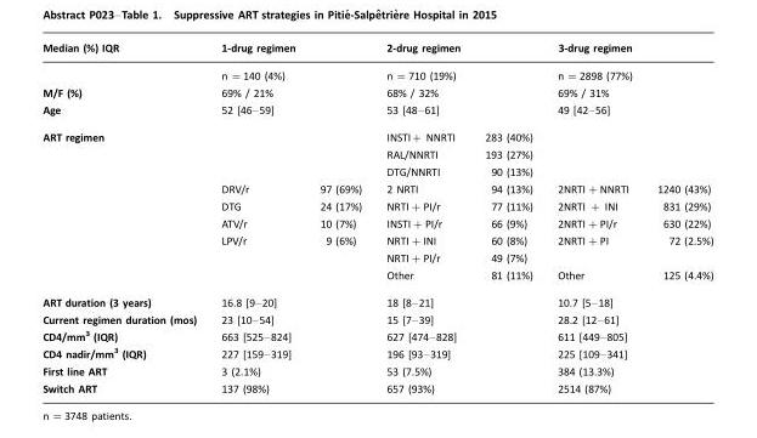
<table><thead><tr><td>Median (%) IQR</td><td>1-drug regimen</td><td></td><td>2-drug regimen</td><td></td><td>3-drug regimen</td><td></td></tr></thead><tbody><tr><td></td><td>n =140 (4%)</td><td></td><td>n =710 (19%)</td><td></td><td>n =2898 (77%)</td><td></td></tr><tr><td>M/F (%)</td><td>69% / 21%</td><td></td><td>68% / 32%</td><td></td><td>69% / 31%</td><td></td></tr><tr><td>Age</td><td>52 [46–59]</td><td></td><td>53 [48–61]</td><td></td><td>49 [42–56]</td><td></td></tr><tr><td rowspan="9">ART regimen</td><td></td><td></td><td>INSTI+ NNRTI</td><td>283 (40%)</td><td></td><td></td></tr><tr><td></td><td></td><td>RAL/NNRTI</td><td>193 (27%)</td><td></td><td></td></tr><tr><td></td><td></td><td>DTG/NNRTI</td><td>90 (13%)</td><td></td><td></td></tr><tr><td>DRV/r</td><td>97 (69%)</td><td>2 NRTI</td><td>94 (13%)</td><td>2NRTI+NNRTI</td><td>1240 (43%)</td></tr><tr><td>DTG</td><td>24 (17%)</td><td>NRTI+PI/r</td><td>77 (11%)</td><td>2NRTI + INI</td><td>831 (29%)</td></tr><tr><td>ATV/r</td><td>10 (7%)</td><td>INSTI+PI/r</td><td>66 (9%)</td><td>2NRTI+PI/r</td><td>630 (22%)</td></tr><tr><td>LPV/r</td><td>9 (6%)</td><td>NRTI+INI</td><td>60 (8%)</td><td>2NRTI+PI</td><td>72 (2.5%)</td></tr><tr><td></td><td></td><td>NRTI+PI/r</td><td>49 (7%)</td><td></td><td></td></tr><tr><td></td><td></td><td>Other</td><td>81 (11%)</td><td>Other</td><td>125 (4.4%)</td></tr><tr><td>ART duration (3 years)</td><td>16.8 [9–20]</td><td></td><td>18 [8–21]</td><td></td><td>10.7 [5–18]</td><td></td></tr><tr><td>Current regimen duration (mos)</td><td>23 [10–54]</td><td></td><td>15 [7–39]</td><td></td><td>28.2 [12–61]</td><td></td></tr><tr><td>CD4/mm3 (IQR)</td><td>663 [525–824]</td><td></td><td>627 [474–828]</td><td></td><td>611 [449–805]</td><td></td></tr><tr><td>CD4 nadir/mm3 (IQR)</td><td>227 [159–319]</td><td></td><td>196 [93–319]</td><td></td><td>225 [109–341]</td><td></td></tr><tr><td>First line ART</td><td>3 (2.1%)</td><td></td><td>53 (7.5%)</td><td></td><td>384 (13.3%)</td><td></td></tr><tr><td>Switch ART</td><td>137 (98%)</td><td></td><td>657 (93%)</td><td></td><td>2514 (87%)</td><td></td></tr></tbody></table>